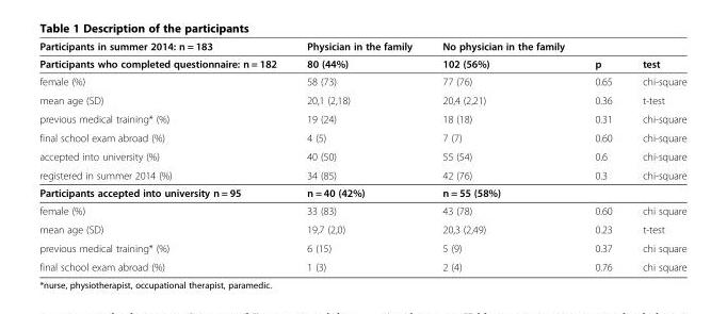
<table><thead><tr><td>Participants in summer 2014: n = 183</td><td>Physician in the family</td><td>No physician in the family</td><td></td><td></td></tr></thead><tbody><tr><td>Participants who completed questionnaire: n = 182</td><td>80 (44%)</td><td>102 (56%)</td><td>p</td><td>test</td></tr><tr><td>female (%)</td><td>58 (73)</td><td>77 (76)</td><td>0.65</td><td>chi-square</td></tr><tr><td>mean age (SD)</td><td>20,1 (2,18)</td><td>20,4 (2,21)</td><td>0.36</td><td>t-test</td></tr><tr><td>previous medical training* (%)</td><td>19 (24)</td><td>18 (18)</td><td>0.31</td><td>chi-square</td></tr><tr><td>final school exam abroad (%)</td><td>4 (5)</td><td>7 (7)</td><td>0.60</td><td>chi-square</td></tr><tr><td>accepted into university (%)</td><td>40 (50)</td><td>55 (54)</td><td>0.6</td><td>chi-square</td></tr><tr><td>registered in summer 2014 (%)</td><td>34 (85)</td><td>42 (76)</td><td>0.3</td><td>chi-square</td></tr><tr><td>Participants accepted into university n = 95</td><td>n = 40 (42%)</td><td>n = 55 (58%)</td><td></td><td></td></tr><tr><td>female (%)</td><td>33 (83)</td><td>43 (78)</td><td>0.60</td><td>chi square</td></tr><tr><td>mean age (SD)</td><td>19,7 (2,0)</td><td>20,3 (2,49)</td><td>0.23</td><td>t-test</td></tr><tr><td>previous medical training* (%)</td><td>6 (15)</td><td>5 (9)</td><td>0.37</td><td>chi square</td></tr><tr><td>final school exam abroad (%)</td><td>1 (3)</td><td>2 (4)</td><td>0.76</td><td>chi square</td></tr></tbody></table>